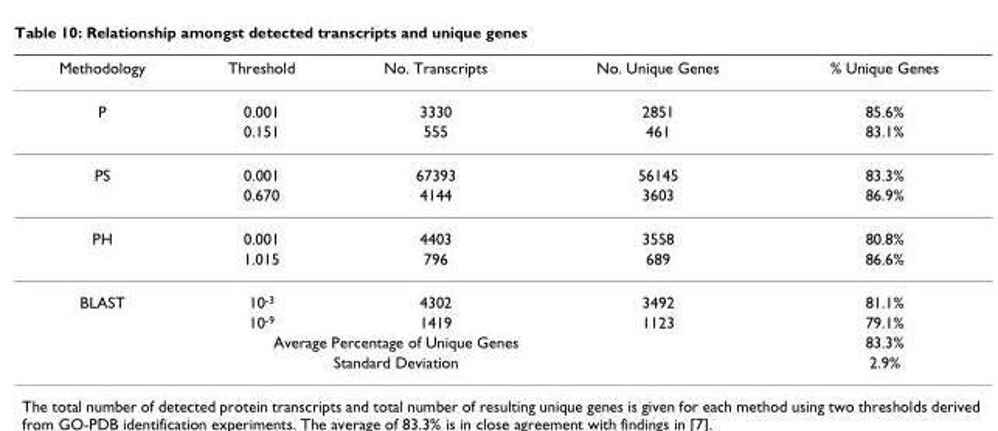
<table><thead><tr><td>Methodology</td><td>Threshold</td><td>No. Transcripts</td><td>No. Unique Genes</td><td>% Unique Genes</td></tr></thead><tbody><tr><td rowspan="2">P</td><td>0.001</td><td>3330</td><td>2851</td><td>85.6%</td></tr><tr><td>0.151</td><td>555</td><td>461</td><td>83.1%</td></tr><tr><td rowspan="2">PS</td><td>0.001</td><td>67393</td><td>56145</td><td>83.3%</td></tr><tr><td>0.670</td><td>4144</td><td>3603</td><td>86.9%</td></tr><tr><td rowspan="2">PH</td><td>0.001</td><td>4403</td><td>3558</td><td>80.8%</td></tr><tr><td>1.015</td><td>796</td><td>689</td><td>86.6%</td></tr><tr><td rowspan="2">BLAST</td><td>10<sup>-3</sup></td><td>4302</td><td>3492</td><td>81.1%</td></tr><tr><td>10<sup>-9</sup></td><td>1419</td><td>1123</td><td>79.1%</td></tr><tr><td colspan="4">Average Percentage of Unique Genes</td><td>83.3%</td></tr><tr><td colspan="4">Standard Deviation</td><td>2.9%</td></tr></tbody></table>